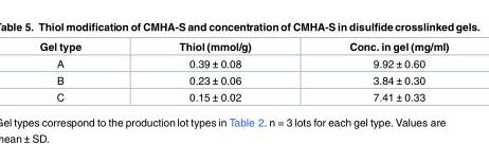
<table><thead><tr><td>Gel type</td><td>Thiol (mmol/g)</td><td>Conc. in gel (mg/ml)</td></tr></thead><tbody><tr><td>A</td><td>0.39 ± 0.08</td><td>9.92 ± 0.60</td></tr><tr><td>B</td><td>0.23 ± 0.06</td><td>3.84 ± 0.30</td></tr><tr><td>C</td><td>0.15 ± 0.02</td><td>7.41 ± 0.33</td></tr></tbody></table>